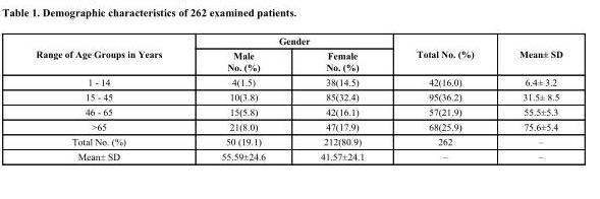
<table><thead><tr><td rowspan="2">Range of Age Groups in Years</td><td colspan="2">Gender</td><td rowspan="2">Total No. (%)</td><td rowspan="2">Mean± SD</td></tr><tr><td>Male No. (%)</td><td>Female No. (%)</td></tr></thead><tbody><tr><td>1 - 14</td><td>4(1.5)</td><td>38(14.5)</td><td>42(16.0)</td><td>6.4± 3.2</td></tr><tr><td>15 - 45</td><td>10(3.8)</td><td>85(32.4)</td><td>95(36.2)</td><td>31.5± 8.5</td></tr><tr><td>46 - 65</td><td>15(5.8)</td><td>42(16.1)</td><td>57(21.9)</td><td>55.5±5.3</td></tr><tr><td>&gt;65</td><td>21(8.0)</td><td>47(17.9)</td><td>68(25.9)</td><td>75.6±5.4</td></tr><tr><td>Total No. (%)</td><td>50 (19.1)</td><td>212(80.9)</td><td>262</td><td>–</td></tr><tr><td>Mean± SD</td><td>55.59±24.6</td><td>41.57±24.1</td><td>–</td><td>–</td></tr></tbody></table>